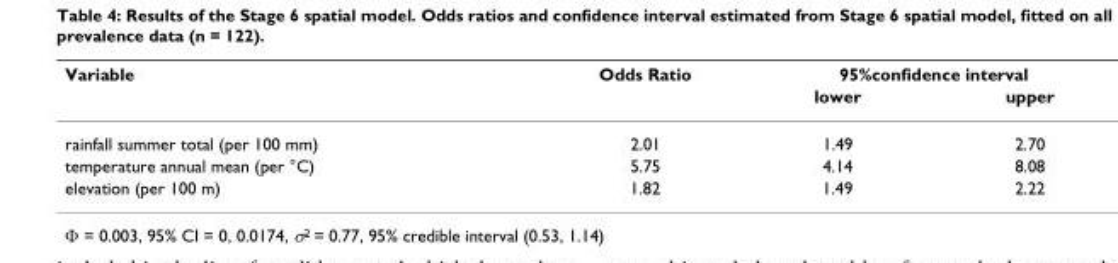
<table><thead><tr><td rowspan="2">Variable</td><td rowspan="2">Odds Ratio</td><td colspan="2">95%confidence interval</td></tr><tr><td>lower</td><td>upper</td></tr></thead><tbody><tr><td>rainfall summer total (per 100 mm)</td><td>2.01</td><td>1.49</td><td>2.70</td></tr><tr><td>temperature annual mean (per °C)</td><td>5.75</td><td>4.14</td><td>8.08</td></tr><tr><td>elevation (per 100 m)</td><td>1.82</td><td>1.49</td><td>2.22</td></tr></tbody></table>